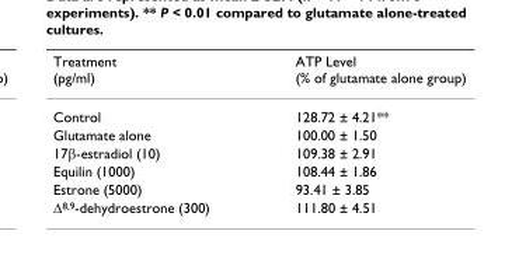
<table><thead><tr><td>Treatment (pg/ml)</td><td>ATP Level (% of glutamate alone group)</td></tr></thead><tbody><tr><td>Control</td><td>128.72 ± 4.21**</td></tr><tr><td>Glutamate alone</td><td>100.00 ± 1.50</td></tr><tr><td>17β-estradiol (10)</td><td>109.38 ± 2.91</td></tr><tr><td>Equilin (1000)</td><td>108.44 ± 1.86</td></tr><tr><td>Estrone (5000)</td><td>93.41 ± 3.85</td></tr><tr><td>∆8,9-dehydroestrone (300)</td><td>111.80 ± 4.51</td></tr></tbody></table>